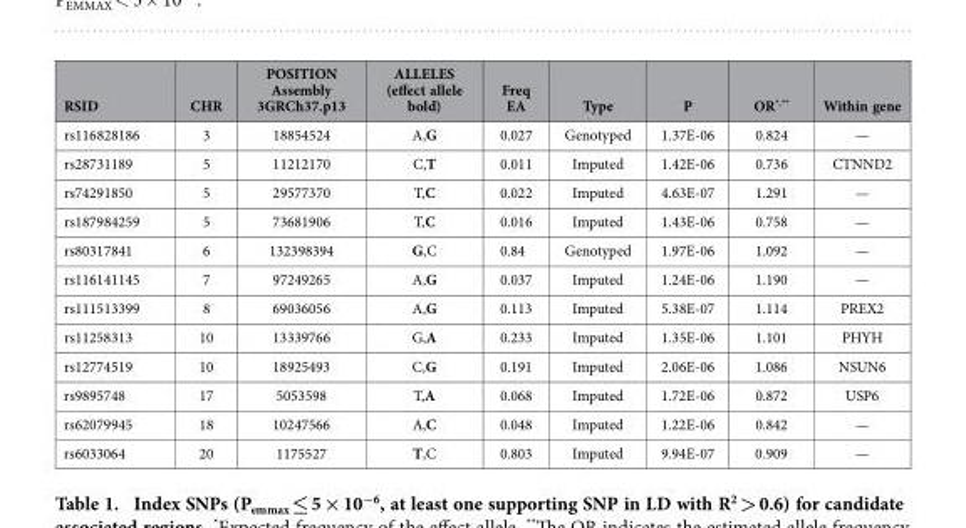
<table><thead><tr><td>RSID</td><td>CHR</td><td>POSITION Assembly 3GRCh37.p13</td><td>ALLELES (effect allele bold)</td><td>Freq EA</td><td>Type</td><td>P</td><td>OR*,**</td><td>Within gene</td></tr></thead><tbody><tr><td>rs116828186</td><td>3</td><td>18854524</td><td>A,G</td><td>0.027</td><td>Genotyped</td><td>1.37E-06</td><td>0.824</td><td>—</td></tr><tr><td>rs28731189</td><td>5</td><td>11212170</td><td>C,T</td><td>0.011</td><td>Imputed</td><td>1.42E-06</td><td>0.736</td><td>CTNND2</td></tr><tr><td>rs74291850</td><td>5</td><td>29577370</td><td>T,C</td><td>0.022</td><td>Imputed</td><td>4.63E-07</td><td>1.291</td><td>—</td></tr><tr><td>rs187984259</td><td>5</td><td>73681906</td><td>T,C</td><td>0.016</td><td>Imputed</td><td>1.43E-06</td><td>0.758</td><td>—</td></tr><tr><td>rs80317841</td><td>6</td><td>132398394</td><td>G,C</td><td>0.84</td><td>Genotyped</td><td>1.97E-06</td><td>1.092</td><td>—</td></tr><tr><td>rs116141145</td><td>7</td><td>97249265</td><td>A,G</td><td>0.037</td><td>Imputed</td><td>1.24E-06</td><td>1.190</td><td>—</td></tr><tr><td>rs111513399</td><td>8</td><td>69036056</td><td>A,G</td><td>0.113</td><td>Imputed</td><td>5.38E-07</td><td>1.114</td><td>PREX2</td></tr><tr><td>rs11258313</td><td>10</td><td>13339766</td><td>G,A</td><td>0.233</td><td>Imputed</td><td>1.35E-06</td><td>1.101</td><td>PHYH</td></tr><tr><td>rs12774519</td><td>10</td><td>18925493</td><td>C,G</td><td>0.191</td><td>Imputed</td><td>2.06E-06</td><td>1.086</td><td>NSUN6</td></tr><tr><td>rs9895748</td><td>17</td><td>5053598</td><td>T,A</td><td>0.068</td><td>Imputed</td><td>1.72E-06</td><td>0.872</td><td>USP6</td></tr><tr><td>rs62079945</td><td>18</td><td>10247566</td><td>A,C</td><td>0.048</td><td>Imputed</td><td>1.22E-06</td><td>0.842</td><td>—</td></tr><tr><td>rs6033064</td><td>20</td><td>1175527</td><td>T,C</td><td>0.803</td><td>Imputed</td><td>9.94E-07</td><td>0.909</td><td>—</td></tr></tbody></table>